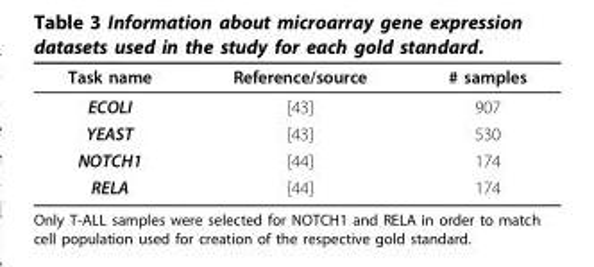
<table><thead><tr><td>Task name</td><td>Reference/source</td><td># samples</td></tr></thead><tbody><tr><td>ECOLI</td><td>[43]</td><td>907</td></tr><tr><td>YEAST</td><td>[43]</td><td>530</td></tr><tr><td>NOTCH1</td><td>[44]</td><td>174</td></tr><tr><td>RELA</td><td>[44]</td><td>174</td></tr></tbody></table>